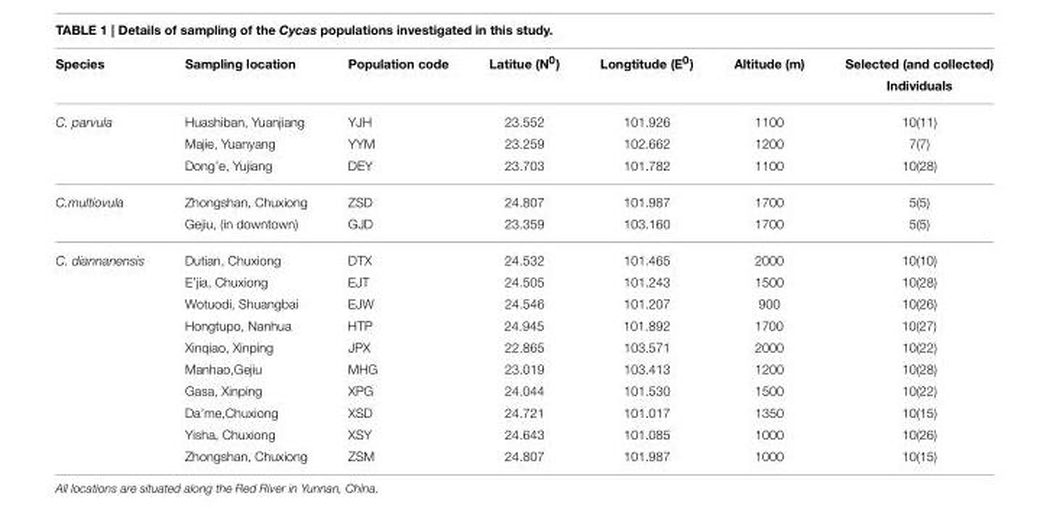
<table><thead><tr><td>Species</td><td>Sampling location</td><td>Population code</td><td>Latitue (N<sup>0</sup>)</td><td>Longtitude (E<sup>0</sup>)</td><td>Altitude (m)</td><td>Selected (and collected) Individuals</td></tr></thead><tbody><tr><td rowspan="3">C. parvula</td><td>Huashiban, Yuanjiang</td><td>YJH</td><td>23.552</td><td>101.926</td><td>1100</td><td>10(11)</td></tr><tr><td>Majie, Yuanyang</td><td>YYM</td><td>23.259</td><td>102.662</td><td>1200</td><td>7(7)</td></tr><tr><td>Dong’e, Yujiang</td><td>DEY</td><td>23.703</td><td>101.782</td><td>1100</td><td>10(28)</td></tr><tr><td rowspan="2">C.multiovula</td><td>Zhongshan, Chuxiong</td><td>ZSD</td><td>24.807</td><td>101.987</td><td>1700</td><td>5(5)</td></tr><tr><td>Gejiu, (in downtown)</td><td>GJD</td><td>23.359</td><td>103.160</td><td>1700</td><td>5(5)</td></tr><tr><td rowspan="10">C. diannanensis</td><td>Dutian, Chuxiong</td><td>DTX</td><td>24.532</td><td>101.465</td><td>2000</td><td>10(10)</td></tr><tr><td>E’jia, Chuxiong</td><td>EJT</td><td>24.505</td><td>101.243</td><td>1500</td><td>10(28)</td></tr><tr><td>Wotuodi, Shuangbai</td><td>EJW</td><td>24.546</td><td>101.207</td><td>900</td><td>10(26)</td></tr><tr><td>Hongtupo, Nanhua</td><td>HTP</td><td>24.945</td><td>101.892</td><td>1700</td><td>10(27)</td></tr><tr><td>Xinqiao, Xinping</td><td>JPX</td><td>22.865</td><td>103.571</td><td>2000</td><td>10(22)</td></tr><tr><td>Manhao,Gejiu</td><td>MHG</td><td>23.019</td><td>103.413</td><td>1200</td><td>10(28)</td></tr><tr><td>Gasa, Xinping</td><td>XPG</td><td>24.044</td><td>101.530</td><td>1500</td><td>10(22)</td></tr><tr><td>Da’me,Chuxiong</td><td>XSD</td><td>24.721</td><td>101.017</td><td>1350</td><td>10(15)</td></tr><tr><td>Yisha, Chuxiong</td><td>XSY</td><td>24.643</td><td>101.085</td><td>1000</td><td>10(26)</td></tr><tr><td>Zhongshan, Chuxiong</td><td>ZSM</td><td>24.807</td><td>101.987</td><td>1000</td><td>10(15)</td></tr></tbody></table>